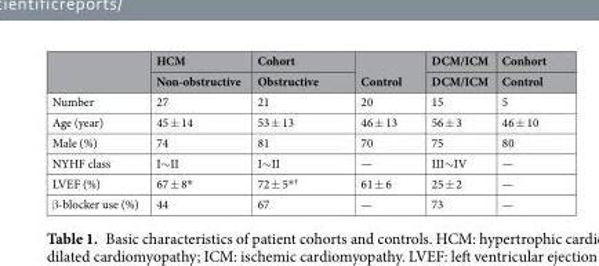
<table><thead><tr><td rowspan="2"></td><td rowspan="2">HCM Non-obstructive</td><td rowspan="2">Cohort Obstructive</td><td rowspan="2">Control</td><td rowspan="2">DCM/ICM DCM/ICM</td><td rowspan="2">Conhort Control</td></tr><tr></tr></thead><tbody><tr><td>Number</td><td>27</td><td>21</td><td>20</td><td>15</td><td>5</td></tr><tr><td>Age (year)</td><td>45 ± 14</td><td>53 ± 13</td><td>46 ± 13</td><td>56 ± 3</td><td>46 ± 10</td></tr><tr><td>Male (%)</td><td>74</td><td>81</td><td>70</td><td>75</td><td>80</td></tr><tr><td>NYHF class</td><td>I∼II</td><td>I∼II</td><td>—</td><td>III∼IV</td><td>—</td></tr><tr><td>LVEF (%)</td><td>67 ± 8*</td><td>72 ± 5*<sup>†</sup></td><td>61 ± 6</td><td>25 ± 2</td><td>—</td></tr><tr><td>β-blocker use (%)</td><td>44</td><td>67</td><td>—</td><td>73</td><td>—</td></tr></tbody></table>